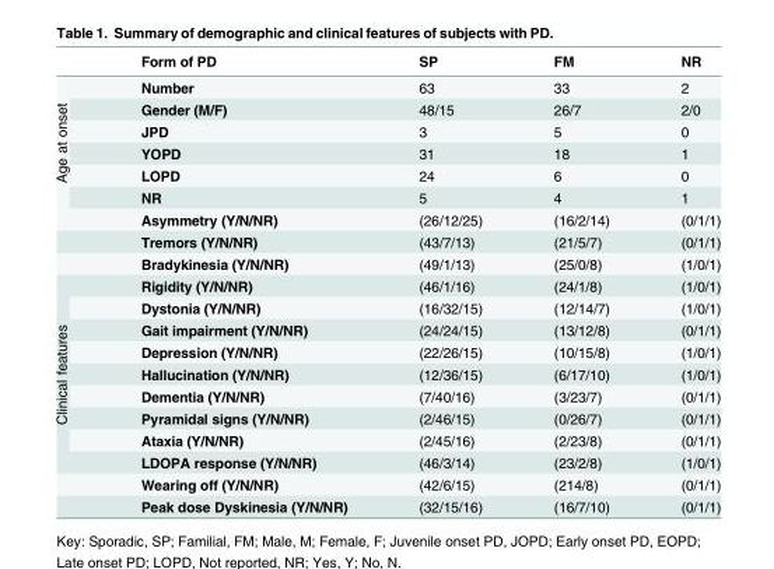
<table><thead><tr><td></td><td>Form of PD</td><td>SP</td><td>FM</td><td>NR</td></tr></thead><tbody><tr><td rowspan="9">Age at onset</td><td>Number</td><td>63</td><td>33</td><td>2</td></tr><tr><td>Gender (M/F)</td><td>48/15</td><td>26/7</td><td>2/0</td></tr><tr><td>JPD</td><td>3</td><td>5</td><td>0</td></tr><tr><td>YOPD</td><td>31</td><td>18</td><td>1</td></tr><tr><td>LOPD</td><td>24</td><td>6</td><td>0</td></tr><tr><td>NR</td><td>5</td><td>4</td><td>1</td></tr><tr><td>Asymmetry (Y/N/NR)</td><td>(26/12/25)</td><td>(16/2/14)</td><td>(0/1/1)</td></tr><tr><td>Tremors (Y/N/NR)</td><td>(43/7/13)</td><td>(21/5/7)</td><td>(0/1/1)</td></tr><tr><td>Bradykinesia (Y/N/NR)</td><td>(49/1/13)</td><td>(25/0/8)</td><td>(1/0/1)</td></tr><tr><td rowspan="11">Clinical features</td><td>Rigidity (Y/N/NR)</td><td>(46/1/16)</td><td>(24/1/8)</td><td>(1/0/1)</td></tr><tr><td>Dystonia (Y/N/NR)</td><td>(16/32/15)</td><td>(12/14/7)</td><td>(1/0/1)</td></tr><tr><td>Gait impairment (Y/N/NR)</td><td>(24/24/15)</td><td>(13/12/8)</td><td>(0/1/1)</td></tr><tr><td>Depression (Y/N/NR)</td><td>(22/26/15)</td><td>(10/15/8)</td><td>(1/0/1)</td></tr><tr><td>Hallucination (Y/N/NR)</td><td>(12/36/15)</td><td>(6/17/10)</td><td>(1/0/1)</td></tr><tr><td>Dementia (Y/N/NR)</td><td>(7/40/16)</td><td>(3/23/7)</td><td>(0/1/1)</td></tr><tr><td>Pyramidal signs (Y/N/NR)</td><td>(2/46/15)</td><td>(0/26/7)</td><td>(0/1/1)</td></tr><tr><td>Ataxia (Y/N/NR)</td><td>(2/45/16)</td><td>(2/23/8)</td><td>(0/1/1)</td></tr><tr><td>LDOPA response (Y/N/NR)</td><td>(46/3/14)</td><td>(23/2/8)</td><td>(1/0/1)</td></tr><tr><td>Wearing off (Y/N/NR)</td><td>(42/6/15)</td><td>(214/8)</td><td>(0/1/1)</td></tr><tr><td>Peak dose Dyskinesia (Y/N/NR)</td><td>(32/15/16)</td><td>(16/7/10)</td><td>(0/1/1)</td></tr></tbody></table>